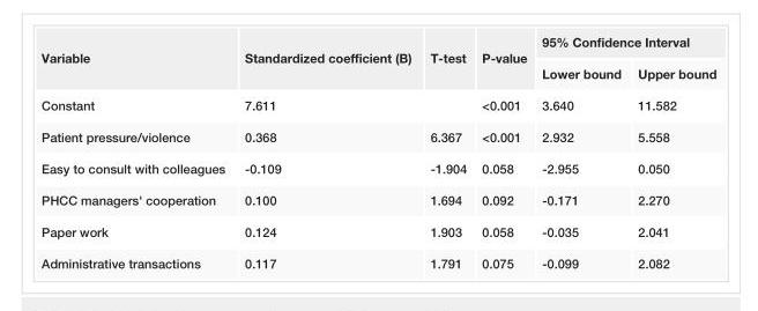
<table><tbody><tr><td rowspan="2">Variable</td><td rowspan="2">Standardized coefficient (B)</td><td rowspan="2">T-test</td><td rowspan="2">P-value</td><td colspan="2">95% Confidence Interval</td></tr><tr><td>Lower bound</td><td>Upper bound</td></tr><tr><td>Constant</td><td>7.611</td><td></td><td>&lt;0.001</td><td>3.640</td><td>11.582</td></tr><tr><td>Patient pressure/violence</td><td>0.368</td><td>6.367</td><td>&lt;0.001</td><td>2.932</td><td>5.558</td></tr><tr><td>Easy to consult with colleagues</td><td>-0.109</td><td>-1.904</td><td>0.058</td><td>-2.955</td><td>0.050</td></tr><tr><td>PHCC managers&#x27; cooperation</td><td>0.100</td><td>1.694</td><td>0.092</td><td>-0.171</td><td>2.270</td></tr><tr><td>Paper work</td><td>0.124</td><td>1.903</td><td>0.058</td><td>-0.035</td><td>2.041</td></tr><tr><td>Administrative transactions</td><td>0.117</td><td>1.791</td><td>0.075</td><td>-0.099</td><td>2.082</td></tr></tbody></table>